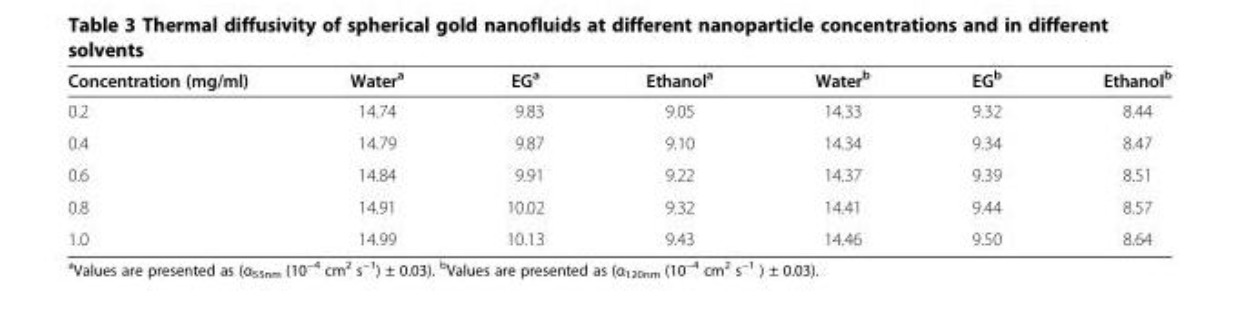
<table><thead><tr><td>Concentration (mg/ml)</td><td>Water<sup>a</sup></td><td>EG<sup>a</sup></td><td>Ethanol<sup>a</sup></td><td>Water<sup>b</sup></td><td>EG<sup>b</sup></td><td>Ethanol<sup>b</sup></td></tr></thead><tbody><tr><td>0.2</td><td>14.74</td><td>9.83</td><td>9.05</td><td>14.33</td><td>9.32</td><td>8.44</td></tr><tr><td>0.4</td><td>14.79</td><td>9.87</td><td>9.10</td><td>14.34</td><td>9.34</td><td>8.47</td></tr><tr><td>0.6</td><td>14.84</td><td>9.91</td><td>9.22</td><td>14.37</td><td>9.39</td><td>8.51</td></tr><tr><td>0.8</td><td>14.91</td><td>10.02</td><td>9.32</td><td>14.41</td><td>9.44</td><td>8.57</td></tr><tr><td>1.0</td><td>14.99</td><td>10.13</td><td>9.43</td><td>14.46</td><td>9.50</td><td>8.64</td></tr></tbody></table>